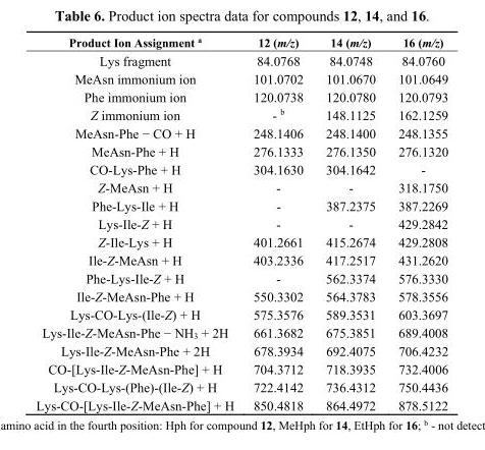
<table><thead><tr><td>Product Ion Assignment <sup>a</sup></td><td>12 (m/z)</td><td>14 (m/z)</td><td>16 (m/z)</td></tr></thead><tbody><tr><td>Lys fragment</td><td>84.0768</td><td>84.0748</td><td>84.0760</td></tr><tr><td>MeAsn immonium ion</td><td>101.0702</td><td>101.0670</td><td>101.0649</td></tr><tr><td>Phe immonium ion</td><td>120.0738</td><td>120.0780</td><td>120.0793</td></tr><tr><td>Z immonium ion</td><td>- <sup>b</sup></td><td>148.1125</td><td>162.1259</td></tr><tr><td>MeAsn-Phe − CO + H</td><td>248.1406</td><td>248.1400</td><td>248.1355</td></tr><tr><td>MeAsn-Phe + H</td><td>276.1333</td><td>276.1350</td><td>276.1320</td></tr><tr><td>CO-Lys-Phe + H</td><td>304.1630</td><td>304.1642</td><td>-</td></tr><tr><td>Z-MeAsn + H</td><td>-</td><td>-</td><td>318.1750</td></tr><tr><td>Phe-Lys-Ile + H</td><td>-</td><td>387.2375</td><td>387.2269</td></tr><tr><td>Lys-Ile-Z + H</td><td>-</td><td>-</td><td>429.2842</td></tr><tr><td>Z-Ile-Lys + H</td><td>401.2661</td><td>415.2674</td><td>429.2808</td></tr><tr><td>Ile-Z-MeAsn + H</td><td>403.2336</td><td>417.2517</td><td>431.2620</td></tr><tr><td>Phe-Lys-Ile-Z + H</td><td>-</td><td>562.3374</td><td>576.3330</td></tr><tr><td>Ile-Z-MeAsn-Phe + H</td><td>550.3302</td><td>564.3783</td><td>578.3556</td></tr><tr><td>Lys-CO-Lys-(Ile-Z) + H</td><td>575.3576</td><td>589.3531</td><td>603.3697</td></tr><tr><td>Lys-Ile-Z-MeAsn-Phe − NH<sub>3</sub> + 2H</td><td>661.3682</td><td>675.3851</td><td>689.4008</td></tr><tr><td>Lys-Ile-Z-MeAsn-Phe + 2H</td><td>678.3934</td><td>692.4075</td><td>706.4232</td></tr><tr><td>CO-[Lys-Ile-Z-MeAsn-Phe] + H</td><td>704.3712</td><td>718.3935</td><td>732.4006</td></tr><tr><td>Lys-CO-Lys-(Phe)-(Ile-Z) + H</td><td>722.4142</td><td>736.4312</td><td>750.4436</td></tr><tr><td>Lys-CO-[Lys-Ile-Z-MeAsn-Phe] + H</td><td>850.4818</td><td>864.4972</td><td>878.5122</td></tr></tbody></table>